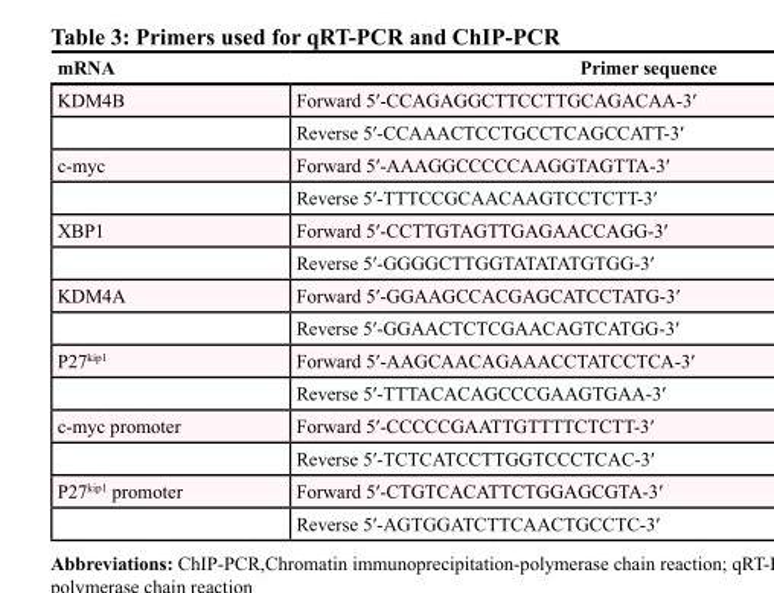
<table><thead><tr><td>mRNA</td><td>Primer sequence</td></tr></thead><tbody><tr><td rowspan="2">KDM4B</td><td>Forward 5′-CCAGAGGCTTCCTTGCAGACAA-3′</td></tr><tr><td>Reverse 5′-CCAAACTCCTGCCTCAGCCATT-3′</td></tr><tr><td rowspan="2">c-myc</td><td>Forward 5′-AAAGGCCCCCAAGGTAGTTA-3′</td></tr><tr><td>Reverse 5′-TTTCCGCAACAAGTCCTCTT-3′</td></tr><tr><td rowspan="2">XBP1</td><td>Forward 5′-CCTTGTAGTTGAGAACCAGG-3′</td></tr><tr><td>Reverse 5′-GGGGCTTGGTATATATGTGG-3′</td></tr><tr><td rowspan="2">KDM4A</td><td>Forward 5′-GGAAGCCACGAGCATCCTATG-3′</td></tr><tr><td>Reverse 5′-GGAACTCTCGAACAGTCATGG-3′</td></tr><tr><td rowspan="2">P27<sup>kip1</sup></td><td>Forward 5′-AAGCAACAGAAACCTATCCTCA-3′</td></tr><tr><td>Reverse 5′-TTTACACAGCCCGAAGTGAA-3′</td></tr><tr><td rowspan="2">c-myc promoter</td><td>Forward 5′-CCCCCGAATTGTTTTCTCTT-3′</td></tr><tr><td>Reverse 5′-TCTCATCCTTGGTCCCTCAC-3′</td></tr><tr><td rowspan="2">P27<sup>kip1</sup> promoter</td><td>Forward 5′-CTGTCACATTCTGGAGCGTA-3′</td></tr><tr><td>Reverse 5′-AGTGGATCTTCAACTGCCTC-3′</td></tr></tbody></table>